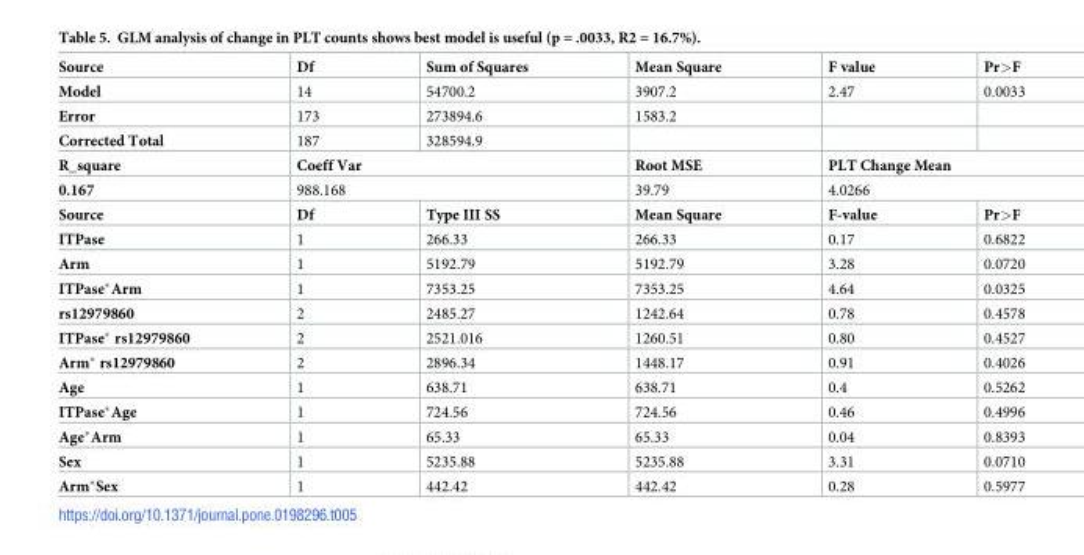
<table><tbody><tr><td>Source</td><td>Df</td><td>Sum of Squares</td><td>Mean Square</td><td>F value</td><td>Pr&gt;F</td></tr><tr><td>Model</td><td>14</td><td>54700.2</td><td>3907.2</td><td>2.47</td><td>0.0033</td></tr><tr><td>Error</td><td>173</td><td>273894.6</td><td>1583.2</td><td></td><td></td></tr><tr><td>Corrected Total</td><td>187</td><td>328594.9</td><td></td><td></td><td></td></tr><tr><td>R_square</td><td colspan="2">Coeff Var</td><td>Root MSE</td><td colspan="2">PLT Change Mean</td></tr><tr><td>0.167</td><td colspan="2">988.168</td><td>39.79</td><td colspan="2">4.0266</td></tr><tr><td>Source</td><td>Df</td><td>Type III SS</td><td>Mean Square</td><td>F-value</td><td>Pr&gt;F</td></tr><tr><td>ITPase</td><td>1</td><td>266.33</td><td>266.33</td><td>0.17</td><td>0.6822</td></tr><tr><td>Arm</td><td>1</td><td>5192.79</td><td>5192.79</td><td>3.28</td><td>0.0720</td></tr><tr><td>ITPase*Arm</td><td>1</td><td>7353.25</td><td>7353.25</td><td>4.64</td><td>0.0325</td></tr><tr><td>rs12979860</td><td>2</td><td>2485.27</td><td>1242.64</td><td>0.78</td><td>0.4578</td></tr><tr><td>ITPase* rs12979860</td><td>2</td><td>2521.016</td><td>1260.51</td><td>0.80</td><td>0.4527</td></tr><tr><td>Arm* rs12979860</td><td>2</td><td>2896.34</td><td>1448.17</td><td>0.91</td><td>0.4026</td></tr><tr><td>Age</td><td>1</td><td>638.71</td><td>638.71</td><td>0.4</td><td>0.5262</td></tr><tr><td>ITPase*Age</td><td>1</td><td>724.56</td><td>724.56</td><td>0.46</td><td>0.4996</td></tr><tr><td>Age*Arm</td><td>1</td><td>65.33</td><td>65.33</td><td>0.04</td><td>0.8393</td></tr><tr><td>Sex</td><td>1</td><td>5235.88</td><td>5235.88</td><td>3.31</td><td>0.0710</td></tr><tr><td>Arm*Sex</td><td>1</td><td>442.42</td><td>442.42</td><td>0.28</td><td>0.5977</td></tr></tbody></table>